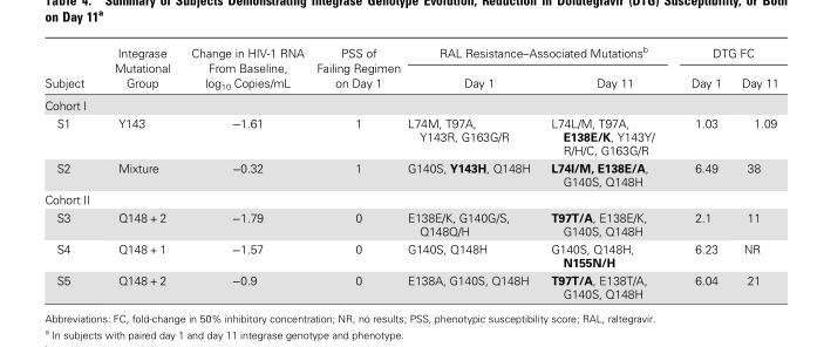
<table><thead><tr><td rowspan="2">Subject</td><td rowspan="2">Integrase Mutational Group</td><td rowspan="2">Change in HIV-1 RNA From Baseline, log<sub>10</sub> Copies/mL</td><td rowspan="2">PSS of Failing Regimen on Day 1</td><td colspan="2">RAL Resistance–Associated Mutations<sup>b</sup></td><td colspan="2">DTG FC</td></tr><tr><td>Day 1</td><td>Day 11</td><td>Day 1</td><td>Day 11</td></tr></thead><tbody><tr><td colspan="8">Cohort I</td></tr><tr><td>S1</td><td>Y143</td><td>−1.61</td><td>1</td><td>L74M, T97A, Y143R, G163G/R</td><td>L74L/M, T97A, E138E/K, Y143Y/ R/H/C, G163G/R</td><td>1.03</td><td>1.09</td></tr><tr><td>S2</td><td>Mixture</td><td>−0.32</td><td>1</td><td>G140S, Y143H, Q148H</td><td>L74I/M, E138E/A, G140S, Q148H</td><td>6.49</td><td>38</td></tr><tr><td colspan="8">Cohort II</td></tr><tr><td>S3</td><td>Q148 + 2</td><td>−1.79</td><td>0</td><td>E138E/K, G140G/S, Q148Q/H</td><td>T97T/A, E138E/K, G140S, Q148H</td><td>2.1</td><td>11</td></tr><tr><td>S4</td><td>Q148 + 1</td><td>−1.57</td><td>0</td><td>G140S, Q148H</td><td>G140S, Q148H, N155N/H</td><td>6.23</td><td>NR</td></tr><tr><td>S5</td><td>Q148 + 2</td><td>−0.9</td><td>0</td><td>E138A, G140S, Q148H</td><td>T97T/A, E138T/A, G140S, Q148H</td><td>6.04</td><td>21</td></tr></tbody></table>